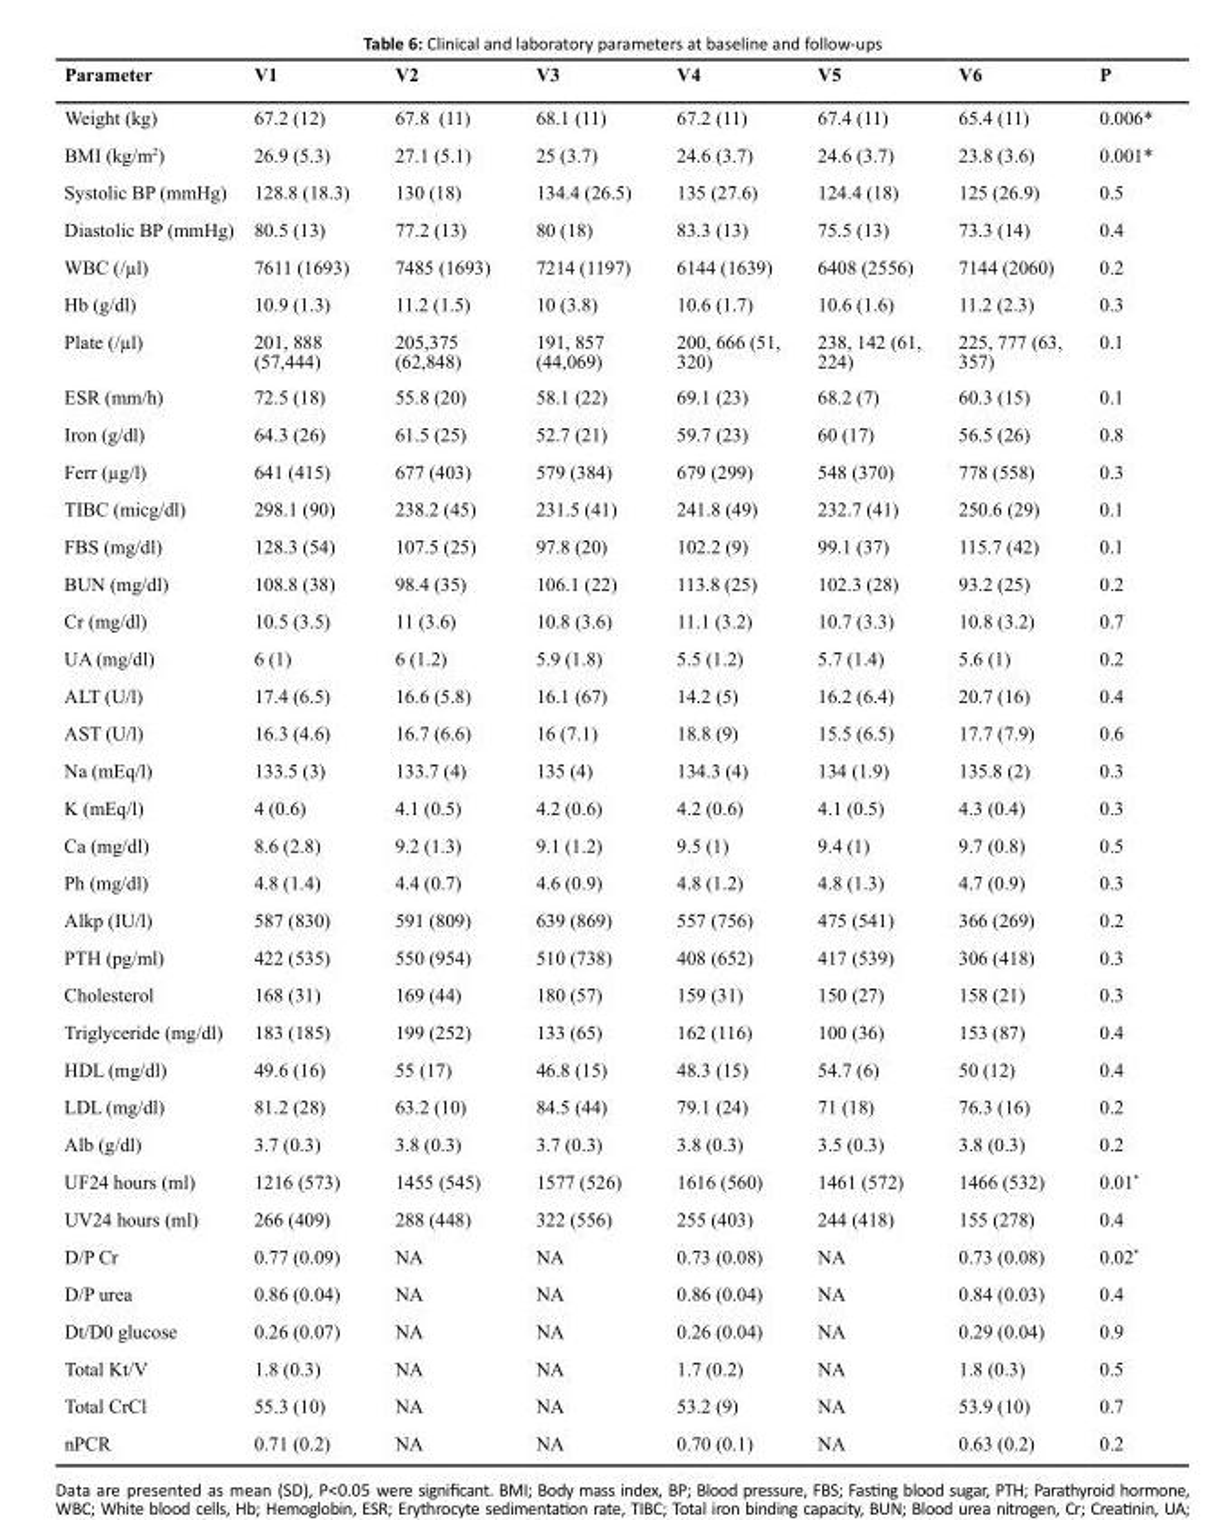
<table><thead><tr><td>Parameter</td><td>V1</td><td>V2</td><td>V3</td><td>V4</td><td>V5</td><td>V6</td><td>P</td></tr></thead><tbody><tr><td>Weight (kg)</td><td>67.2 (12)</td><td>67.8 (11)</td><td>68.1 (11)</td><td>67.2 (11)</td><td>67.4 (11)</td><td>65.4 (11)</td><td>0.006*</td></tr><tr><td>BMI (kg/m<sup>2</sup>)</td><td>26.9 (5.3)</td><td>27.1 (5.1)</td><td>25 (3.7)</td><td>24.6 (3.7)</td><td>24.6 (3.7)</td><td>23.8 (3.6)</td><td>0.001*</td></tr><tr><td>Systolic BP (mmHg)</td><td>128.8 (18.3)</td><td>130 (18)</td><td>134.4 (26.5)</td><td>135 (27.6)</td><td>124.4 (18)</td><td>125 (26.9)</td><td>0.5</td></tr><tr><td>Diastolic BP (mmHg)</td><td>80.5 (13)</td><td>77.2 (13)</td><td>80 (18)</td><td>83.3 (13)</td><td>75.5 (13)</td><td>73.3 (14)</td><td>0.4</td></tr><tr><td>WBC (/µl)</td><td>7611 (1693)</td><td>7485 (1693)</td><td>7214 (1197)</td><td>6144 (1639)</td><td>6408 (2556)</td><td>7144 (2060)</td><td>0.2</td></tr><tr><td>Hb (g/dl)</td><td>10.9 (1.3)</td><td>11.2 (1.5)</td><td>10 (3.8)</td><td>10.6 (1.7)</td><td>10.6 (1.6)</td><td>11.2 (2.3)</td><td>0.3</td></tr><tr><td>Plate (/µl)</td><td>201, 888 (57,444)</td><td>205,375 (62,848)</td><td>191, 857 (44,069)</td><td>200, 666 (51, 320)</td><td>238, 142 (61, 224)</td><td>225, 777 (63, 357)</td><td>0.1</td></tr><tr><td>ESR (mm/h)</td><td>72.5 (18)</td><td>55.8 (20)</td><td>58.1 (22)</td><td>69.1 (23)</td><td>68.2 (7)</td><td>60.3 (15)</td><td>0.1</td></tr><tr><td>Iron (g/dl)</td><td>64.3 (26)</td><td>61.5 (25)</td><td>52.7 (21)</td><td>59.7 (23)</td><td>60 (17)</td><td>56.5 (26)</td><td>0.8</td></tr><tr><td>Ferr (µg/l)</td><td>641 (415)</td><td>677 (403)</td><td>579 (384)</td><td>679 (299)</td><td>548 (370)</td><td>778 (558)</td><td>0.3</td></tr><tr><td>TIBC (micg/dl)</td><td>298.1 (90)</td><td>238.2 (45)</td><td>231.5 (41)</td><td>241.8 (49)</td><td>232.7 (41)</td><td>250.6 (29)</td><td>0.1</td></tr><tr><td>FBS (mg/dl)</td><td>128.3 (54)</td><td>107.5 (25)</td><td>97.8 (20)</td><td>102.2 (9)</td><td>99.1 (37)</td><td>115.7 (42)</td><td>0.1</td></tr><tr><td>BUN (mg/dl)</td><td>108.8 (38)</td><td>98.4 (35)</td><td>106.1 (22)</td><td>113.8 (25)</td><td>102.3 (28)</td><td>93.2 (25)</td><td>0.2</td></tr><tr><td>Cr (mg/dl)</td><td>10.5 (3.5)</td><td>11 (3.6)</td><td>10.8 (3.6)</td><td>11.1 (3.2)</td><td>10.7 (3.3)</td><td>10.8 (3.2)</td><td>0.7</td></tr><tr><td>UA (mg/dl)</td><td>6 (1)</td><td>6 (1.2)</td><td>5.9 (1.8)</td><td>5.5 (1.2)</td><td>5.7 (1.4)</td><td>5.6 (1)</td><td>0.2</td></tr><tr><td>ALT (U/l)</td><td>17.4 (6.5)</td><td>16.6 (5.8)</td><td>16.1 (67)</td><td>14.2 (5)</td><td>16.2 (6.4)</td><td>20.7 (16)</td><td>0.4</td></tr><tr><td>AST (U/l)</td><td>16.3 (4.6)</td><td>16.7 (6.6)</td><td>16 (7.1)</td><td>18.8 (9)</td><td>15.5 (6.5)</td><td>17.7 (7.9)</td><td>0.6</td></tr><tr><td>Na (mEq/l)</td><td>133.5 (3)</td><td>133.7 (4)</td><td>135 (4)</td><td>134.3 (4)</td><td>134 (1.9)</td><td>135.8 (2)</td><td>0.3</td></tr><tr><td>K (mEq/l)</td><td>4 (0.6)</td><td>4.1 (0.5)</td><td>4.2 (0.6)</td><td>4.2 (0.6)</td><td>4.1 (0.5)</td><td>4.3 (0.4)</td><td>0.3</td></tr><tr><td>Ca (mg/dl)</td><td>8.6 (2.8)</td><td>9.2 (1.3)</td><td>9.1 (1.2)</td><td>9.5 (1)</td><td>9.4 (1)</td><td>9.7 (0.8)</td><td>0.5</td></tr><tr><td>Ph (mg/dl)</td><td>4.8 (1.4)</td><td>4.4 (0.7)</td><td>4.6 (0.9)</td><td>4.8 (1.2)</td><td>4.8 (1.3)</td><td>4.7 (0.9)</td><td>0.3</td></tr><tr><td>Alkp (IU/l)</td><td>587 (830)</td><td>591 (809)</td><td>639 (869)</td><td>557 (756)</td><td>475 (541)</td><td>366 (269)</td><td>0.2</td></tr><tr><td>PTH (pg/ml)</td><td>422 (535)</td><td>550 (954)</td><td>510 (738)</td><td>408 (652)</td><td>417 (539)</td><td>306 (418)</td><td>0.3</td></tr><tr><td>Cholesterol</td><td>168 (31)</td><td>169 (44)</td><td>180 (57)</td><td>159 (31)</td><td>150 (27)</td><td>158 (21)</td><td>0.3</td></tr><tr><td>Triglyceride (mg/dl)</td><td>183 (185)</td><td>199 (252)</td><td>133 (65)</td><td>162 (116)</td><td>100 (36)</td><td>153 (87)</td><td>0.4</td></tr><tr><td>HDL (mg/dl)</td><td>49.6 (16)</td><td>55 (17)</td><td>46.8 (15)</td><td>48.3 (15)</td><td>54.7 (6)</td><td>50 (12)</td><td>0.4</td></tr><tr><td>LDL (mg/dl)</td><td>81.2 (28)</td><td>63.2 (10)</td><td>84.5 (44)</td><td>79.1 (24)</td><td>71 (18)</td><td>76.3 (16)</td><td>0.2</td></tr><tr><td>Alb (g/dl)</td><td>3.7 (0.3)</td><td>3.8 (0.3)</td><td>3.7 (0.3)</td><td>3.8 (0.3)</td><td>3.5 (0.3)</td><td>3.8 (0.3)</td><td>0.2</td></tr><tr><td>UF24 hours (ml)</td><td>1216 (573)</td><td>1455 (545)</td><td>1577 (526)</td><td>1616 (560)</td><td>1461 (572)</td><td>1466 (532)</td><td>0.01*</td></tr><tr><td>UV24 hours (ml)</td><td>266 (409)</td><td>288 (448)</td><td>322 (556)</td><td>255 (403)</td><td>244 (418)</td><td>155 (278)</td><td>0.4</td></tr><tr><td>D/P Cr</td><td>0.77 (0.09)</td><td>NA</td><td>NA</td><td>0.73 (0.08)</td><td>NA</td><td>0.73 (0.08)</td><td>0.02*</td></tr><tr><td>D/P urea</td><td>0.86 (0.04)</td><td>NA</td><td>NA</td><td>0.86 (0.04)</td><td>NA</td><td>0.84 (0.03)</td><td>0.4</td></tr><tr><td>Dt/D0 glucose</td><td>0.26 (0.07)</td><td>NA</td><td>NA</td><td>0.26 (0.04)</td><td>NA</td><td>0.29 (0.04)</td><td>0.9</td></tr><tr><td>Total Kt/V</td><td>1.8 (0.3)</td><td>NA</td><td>NA</td><td>1.7 (0.2)</td><td>NA</td><td>1.8 (0.3)</td><td>0.5</td></tr><tr><td>Total CrCl</td><td>55.3 (10)</td><td>NA</td><td>NA</td><td>53.2 (9)</td><td>NA</td><td>53.9 (10)</td><td>0.7</td></tr><tr><td>nPCR</td><td>0.71 (0.2)</td><td>NA</td><td>NA</td><td>0.70 (0.1)</td><td>NA</td><td>0.63 (0.2)</td><td>0.2</td></tr></tbody></table>